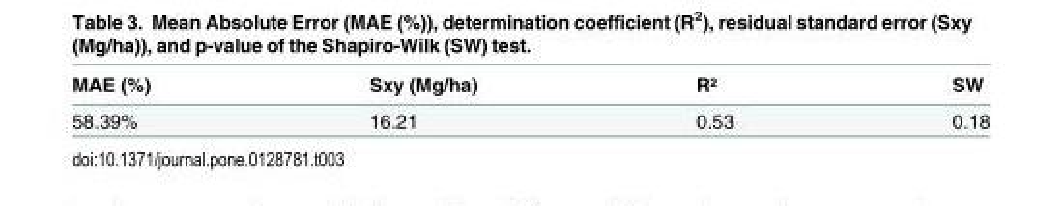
<table><thead><tr><td>MAE (%)</td><td>Sxy (Mg/ha)</td><td>R²</td><td>SW</td></tr></thead><tbody><tr><td>58.39%</td><td>16.21</td><td>0.53</td><td>0.18</td></tr></tbody></table>